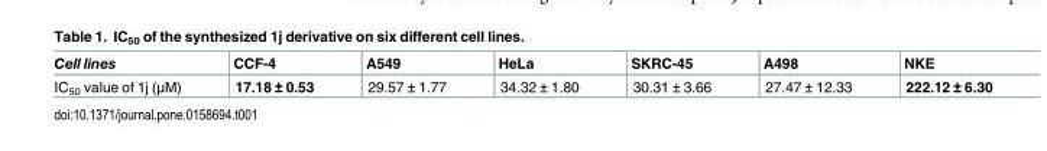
<table><thead><tr><td>Cell lines</td><td>CCF-4</td><td>A549</td><td>HeLa</td><td>SKRC-45</td><td>A498</td><td>NKE</td></tr></thead><tbody><tr><td>IC<sub>50</sub> value of 1j (μM)</td><td>17.18 ± 0.53</td><td>29.57 ± 1.77</td><td>34.32 ± 1.80</td><td>30.31 ± 3.66</td><td>27.47 ± 12.33</td><td>222.12 ± 6.30</td></tr></tbody></table>